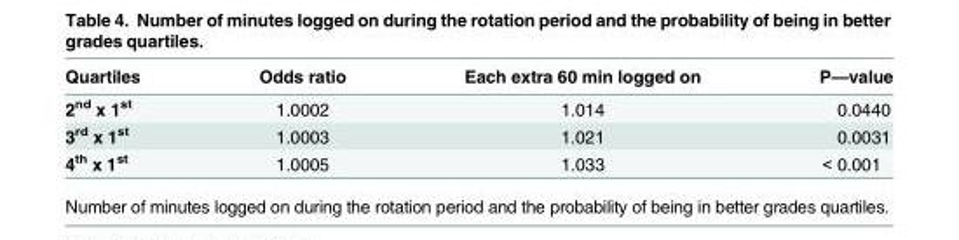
<table><thead><tr><td>Quartiles</td><td>Odds ratio</td><td>Each extra 60 min logged on</td><td>P—value</td></tr></thead><tbody><tr><td>2<sup>nd</sup> x 1<sup>st</sup></td><td>1.0002</td><td>1.014</td><td>0.0440</td></tr><tr><td>3<sup>rd</sup> x 1<sup>st</sup></td><td>1.0003</td><td>1.021</td><td>0.0031</td></tr><tr><td>4<sup>th</sup> x 1<sup>st</sup></td><td>1.0005</td><td>1.033</td><td>&lt; 0.001</td></tr></tbody></table>